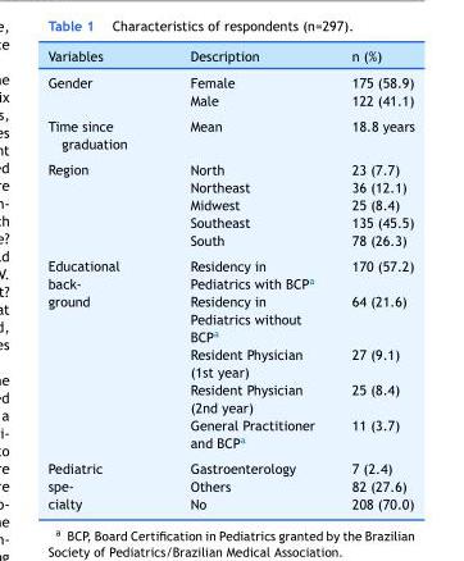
<table><thead><tr><td>Variables</td><td>Description</td><td>n (%)</td></tr></thead><tbody><tr><td rowspan="2">Gender</td><td>Female</td><td>175 (58.9)</td></tr><tr><td>Male</td><td>122 (41.1)</td></tr><tr><td>Time since graduation</td><td>Mean</td><td>18.8 years</td></tr><tr><td rowspan="5">Region</td><td>North</td><td>23 (7.7)</td></tr><tr><td>Northeast</td><td>36 (12.1)</td></tr><tr><td>Midwest</td><td>25 (8.4)</td></tr><tr><td>Southeast</td><td>135 (45.5)</td></tr><tr><td>South</td><td>78 (26.3)</td></tr><tr><td rowspan="5">Educational back- ground</td><td>Residency in Pediatrics with BCP<sup>a</sup></td><td>170 (57.2)</td></tr><tr><td>Residency in Pediatrics without BCP<sup>a</sup></td><td>64 (21.6)</td></tr><tr><td>Resident Physician (1st year)</td><td>27 (9.1)</td></tr><tr><td>Resident Physician (2nd year)</td><td>25 (8.4)</td></tr><tr><td>General Practitioner and BCP<sup>a</sup></td><td>11 (3.7)</td></tr><tr><td rowspan="3">Pediatric spe- cialty</td><td>Gastroenterology</td><td>7 (2.4)</td></tr><tr><td>Others</td><td>82 (27.6)</td></tr><tr><td>No</td><td>208 (70.0)</td></tr></tbody></table>